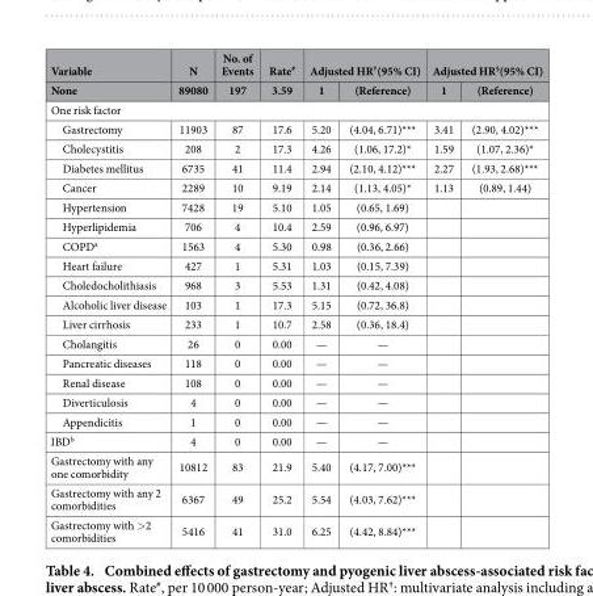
<table><thead><tr><td rowspan="2">Variable None</td><td rowspan="2">N 89080</td><td rowspan="2">No. of Events 197</td><td rowspan="2">Rate<sup>#</sup> 3.59</td><td colspan="2">Adjusted HR<sup>†</sup>(95% CI)</td><td colspan="2">Adjusted HR<sup>§</sup>(95% CI)</td></tr><tr><td>1</td><td>(Reference)</td><td>1</td><td>(Reference)</td></tr></thead><tbody><tr><td colspan="8">One risk factor</td></tr><tr><td>Gastrectomy</td><td>11903</td><td>87</td><td>17.6</td><td>5.20</td><td>(4.04, 6.71)***</td><td>3.41</td><td>(2.90, 4.02)***</td></tr><tr><td>Cholecystitis</td><td>208</td><td>2</td><td>17.3</td><td>4.26</td><td>(1.06, 17.2)*</td><td>1.59</td><td>(1.07, 2.36)*</td></tr><tr><td>Diabetes mellitus</td><td>6735</td><td>41</td><td>11.4</td><td>2.94</td><td>(2.10, 4.12)***</td><td>2.27</td><td>(1.93, 2.68)***</td></tr><tr><td>Cancer</td><td>2289</td><td>10</td><td>9.19</td><td>2.14</td><td>(1.13, 4.05)*</td><td>1.13</td><td>(0.89, 1.44)</td></tr><tr><td>Hypertension</td><td>7428</td><td>19</td><td>5.10</td><td>1.05</td><td>(0.65, 1.69)</td><td></td><td></td></tr><tr><td>Hyperlipidemia</td><td>706</td><td>4</td><td>10.4</td><td>2.59</td><td>(0.96, 6.97)</td><td></td><td></td></tr><tr><td>COPD<sup>a</sup></td><td>1563</td><td>4</td><td>5.30</td><td>0.98</td><td>(0.36, 2.66)</td><td></td><td></td></tr><tr><td>Heart failure</td><td>427</td><td>1</td><td>5.31</td><td>1.03</td><td>(0.15, 7.39)</td><td></td><td></td></tr><tr><td>Choledocholithiasis</td><td>968</td><td>3</td><td>5.53</td><td>1.31</td><td>(0.42, 4.08)</td><td></td><td></td></tr><tr><td>Alcoholic liver disease</td><td>103</td><td>1</td><td>17.3</td><td>5.15</td><td>(0.72, 36.8)</td><td></td><td></td></tr><tr><td>Liver cirrhosis</td><td>233</td><td>1</td><td>10.7</td><td>2.58</td><td>(0.36, 18.4)</td><td></td><td></td></tr><tr><td>Cholangitis</td><td>26</td><td>0</td><td>0.00</td><td>—</td><td>—</td><td></td><td></td></tr><tr><td>Pancreatic diseases</td><td>118</td><td>0</td><td>0.00</td><td>—</td><td>—</td><td></td><td></td></tr><tr><td>Renal disease</td><td>108</td><td>0</td><td>0.00</td><td>—</td><td>—</td><td></td><td></td></tr><tr><td>Diverticulosis</td><td>4</td><td>0</td><td>0.00</td><td>—</td><td>—</td><td></td><td></td></tr><tr><td>Appendicitis</td><td>1</td><td>0</td><td>0.00</td><td>—</td><td>—</td><td></td><td></td></tr><tr><td>IBD<sup>b</sup></td><td>4</td><td>0</td><td>0.00</td><td>—</td><td>—</td><td></td><td></td></tr><tr><td>Gastrectomy with any one comorbidity</td><td>10812</td><td>83</td><td>21.9</td><td>5.40</td><td>(4.17, 7.00)***</td><td></td><td></td></tr><tr><td>Gastrectomy with any 2 comorbidities</td><td>6367</td><td>49</td><td>25.2</td><td>5.54</td><td>(4.03, 7.62)***</td><td></td><td></td></tr><tr><td>Gastrectomy with &gt; 2 comorbidities</td><td>5416</td><td>41</td><td>31.0</td><td>6.25</td><td>(4.42, 8.84)***</td><td></td><td></td></tr></tbody></table>